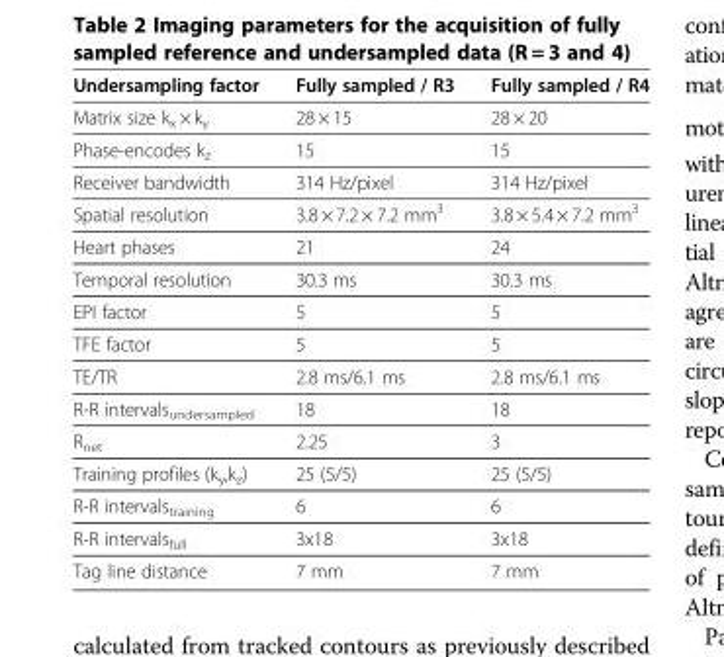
<table><thead><tr><td>Undersampling factor</td><td>Fully sampled / R3</td><td>Fully sampled / R4</td></tr></thead><tbody><tr><td>Matrix size k<sub>x</sub> × k<sub>y</sub></td><td>28 × 15</td><td>28 × 20</td></tr><tr><td>Phase-encodes k<sub>z</sub></td><td>15</td><td>15</td></tr><tr><td>Receiver bandwidth</td><td>314 Hz/pixel</td><td>314 Hz/pixel</td></tr><tr><td>Spatial resolution</td><td>3.8 × 7.2 × 7.2 mm<sup>3</sup></td><td>3.8 × 5.4 × 7.2 mm<sup>3</sup></td></tr><tr><td>Heart phases</td><td>21</td><td>24</td></tr><tr><td>Temporal resolution</td><td>30.3 ms</td><td>30.3 ms</td></tr><tr><td>EPI factor</td><td>5</td><td>5</td></tr><tr><td>TFE factor</td><td>5</td><td>5</td></tr><tr><td>TE/TR</td><td>2.8 ms/6.1 ms</td><td>2.8 ms/6.1 ms</td></tr><tr><td>R-R intervals<sub>undersampled</sub></td><td>18</td><td>18</td></tr><tr><td>R<sub>net</sub></td><td>2.25</td><td>3</td></tr><tr><td>Training profiles (k<sub>y</sub>,k<sub>z</sub>)</td><td>25 (5/5)</td><td>25 (5/5)</td></tr><tr><td>R-R intervals<sub>training</sub></td><td>6</td><td>6</td></tr><tr><td>R-R intervals<sub>full</sub></td><td>3x18</td><td>3x18</td></tr><tr><td>Tag line distance</td><td>7 mm</td><td>7 mm</td></tr></tbody></table>